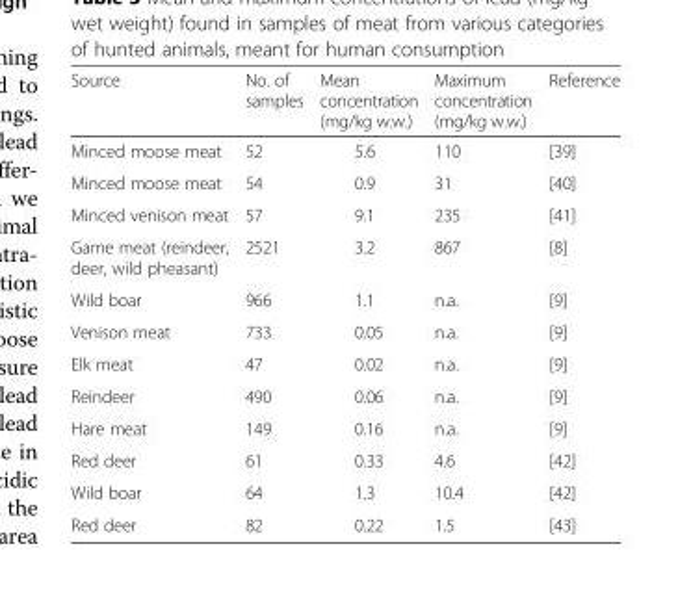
<table><thead><tr><td>Source</td><td>No. of samples</td><td>Mean concentration (mg/kg w.w.)</td><td>Maximum concentration (mg/kg w.w.)</td><td>Reference</td></tr></thead><tbody><tr><td>Minced moose meat</td><td>52</td><td>5.6</td><td>110</td><td>[39]</td></tr><tr><td>Minced moose meat</td><td>54</td><td>0.9</td><td>31</td><td>[40]</td></tr><tr><td>Minced venison meat</td><td>57</td><td>9.1</td><td>235</td><td>[41]</td></tr><tr><td>Game meat (reindeer, deer, wild pheasant)</td><td>2521</td><td>3.2</td><td>867</td><td>[8]</td></tr><tr><td>Wild boar</td><td>966</td><td>1.1</td><td>n.a.</td><td>[9]</td></tr><tr><td>Venison meat</td><td>733</td><td>0.05</td><td>n.a.</td><td>[9]</td></tr><tr><td>Elk meat</td><td>47</td><td>0.02</td><td>n.a.</td><td>[9]</td></tr><tr><td>Reindeer</td><td>490</td><td>0.06</td><td>n.a.</td><td>[9]</td></tr><tr><td>Hare meat</td><td>149</td><td>0.16</td><td>n.a.</td><td>[9]</td></tr><tr><td>Red deer</td><td>61</td><td>0.33</td><td>4.6</td><td>[42]</td></tr><tr><td>Wild boar</td><td>64</td><td>1.3</td><td>10.4</td><td>[42]</td></tr><tr><td>Red deer</td><td>82</td><td>0.22</td><td>1.5</td><td>[43]</td></tr></tbody></table>